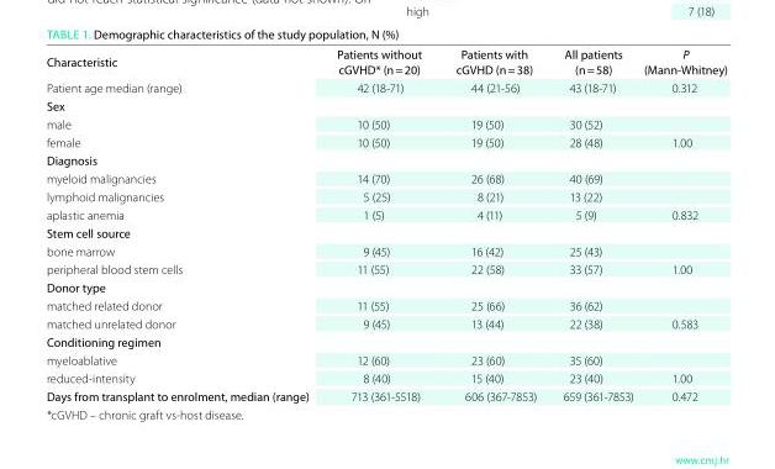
<table><thead><tr><td>Characteristic</td><td>Patients without cGVhD* (n = 20)</td><td>Patients with cGVhD (n = 38)</td><td>All patients (n = 58)</td><td>P (mann-Whitney)</td></tr></thead><tbody><tr><td>Patient age median (range)</td><td>42 (18-71)</td><td>44 (21-56)</td><td>43 (18-71)</td><td>0.312</td></tr><tr><td colspan="5">Sex</td></tr><tr><td>male</td><td>10 (50)</td><td>19 (50)</td><td>30 (52)</td><td></td></tr><tr><td>female</td><td>10 (50)</td><td>19 (50)</td><td>28 (48)</td><td>1.00</td></tr><tr><td colspan="5">Diagnosis</td></tr><tr><td>myeloid malignancies</td><td>14 (70)</td><td>26 (68)</td><td>40 (69)</td><td></td></tr><tr><td>lymphoid malignancies</td><td>5 (25)</td><td>8 (21)</td><td>13 (22)</td><td></td></tr><tr><td>aplastic anemia</td><td>1 (5)</td><td>4 (11)</td><td>5 (9)</td><td>0.832</td></tr><tr><td colspan="5">Stem cell source</td></tr><tr><td>bone marrow</td><td>9 (45)</td><td>16 (42)</td><td>25 (43)</td><td></td></tr><tr><td>peripheral blood stem cells</td><td>11 (55)</td><td>22 (58)</td><td>33 (57)</td><td>1.00</td></tr><tr><td colspan="5">Donor type</td></tr><tr><td>matched related donor</td><td>11 (55)</td><td>25 (66)</td><td>36 (62)</td><td></td></tr><tr><td>matched unrelated donor</td><td>9 (45)</td><td>13 (44)</td><td>22 (38)</td><td>0.583</td></tr><tr><td colspan="5">Conditioning regimen</td></tr><tr><td>myeloablative</td><td>12 (60)</td><td>23 (60)</td><td>35 (60)</td><td></td></tr><tr><td>reduced-intensity</td><td>8 (40)</td><td>15 (40)</td><td>23 (40)</td><td>1.00</td></tr><tr><td>Days from transplant to enrolment, median (range)</td><td>713 (361-5518)</td><td>606 (367-7853)</td><td>659 (361-7853)</td><td>0.472</td></tr><tr><td colspan="5">*cGVHD – chronic graft vs-host disease.</td></tr></tbody></table>